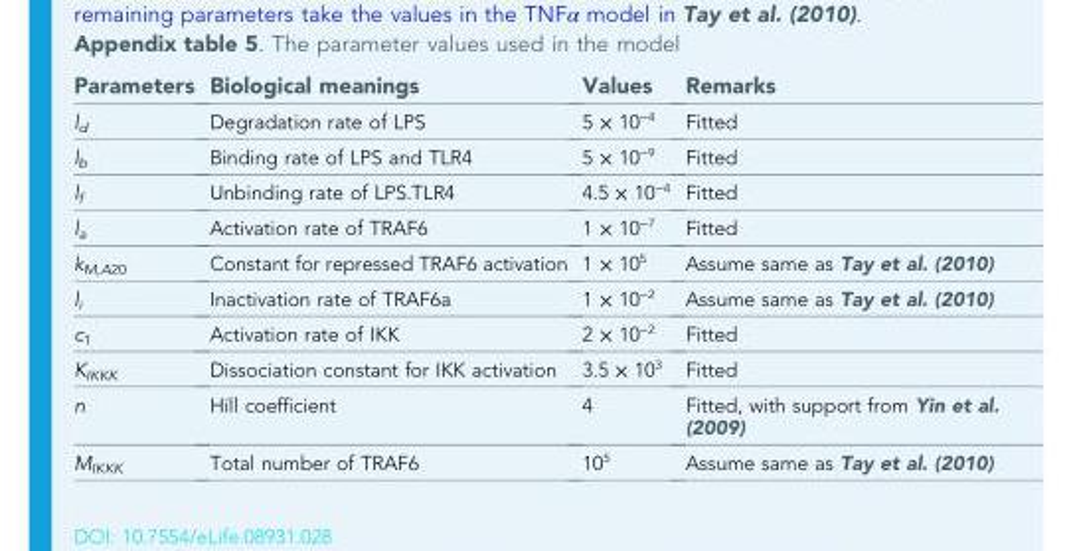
<table><thead><tr><td>Parameters</td><td>Biological meanings</td><td>Values</td><td>Remarks</td></tr></thead><tbody><tr><td>l<sub>d</sub></td><td>Degradation rate of LPS</td><td>5 × 10<sup>−4</sup></td><td>Fitted</td></tr><tr><td>l<sub>b</sub></td><td>Binding rate of LPS and TLR4</td><td>5 × 10<sup>−9</sup></td><td>Fitted</td></tr><tr><td>l<sub>f</sub></td><td>Unbinding rate of LPS.TLR4</td><td>4.5 × 10<sup>−4</sup></td><td>Fitted</td></tr><tr><td>l<sub>a</sub></td><td>Activation rate of TRAF6</td><td>1 × 10<sup>−7</sup></td><td>Fitted</td></tr><tr><td>k<sub>M,A20</sub></td><td>Constant for repressed TRAF6 activation</td><td>1 × 10<sup>5</sup></td><td>Assume same as Tay et al. (2010)</td></tr><tr><td>l<sub>i</sub></td><td>Inactivation rate of TRAF6a</td><td>1 × 10<sup>−2</sup></td><td>Assume same as Tay et al. (2010)</td></tr><tr><td>c<sub>1</sub></td><td>Activation rate of IKK</td><td>2 × 10<sup>−2</sup></td><td>Fitted</td></tr><tr><td>K<sub>IKKK</sub></td><td>Dissociation constant for IKK activation</td><td>3.5 × 10<sup>3</sup></td><td>Fitted</td></tr><tr><td>n</td><td>Hill coefficient</td><td>4</td><td>Fitted, with support from Yin et al. (2009)</td></tr><tr><td>M<sub>IKKK</sub></td><td>Total number of TRAF6</td><td>10<sup>5</sup></td><td>Assume same as Tay et al. (2010)</td></tr></tbody></table>